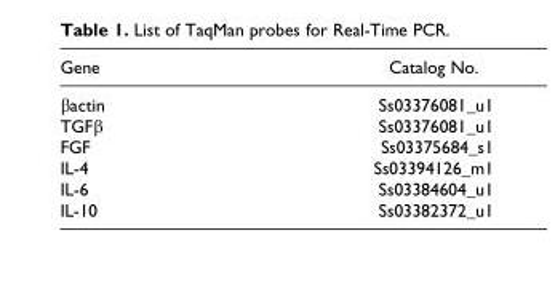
<table><thead><tr><td>Gene</td><td>Catalog No.</td></tr></thead><tbody><tr><td>βactin</td><td>Ss03376081_u1</td></tr><tr><td>TGFβ</td><td>Ss03376081_u1</td></tr><tr><td>FGF</td><td>Ss03375684_s1</td></tr><tr><td>IL-4</td><td>Ss03394126_m1</td></tr><tr><td>IL-6</td><td>Ss03384604_u1</td></tr><tr><td>IL-10</td><td>Ss03382372_u1</td></tr></tbody></table>